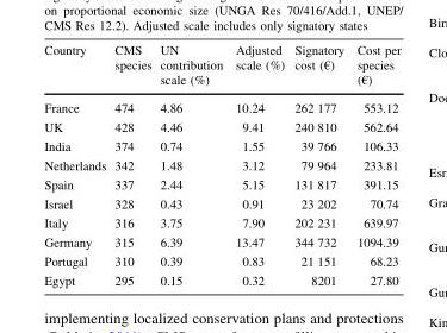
<table><thead><tr><td>Country</td><td>CMS species</td><td>UN contribution scale (%)</td><td>Adjusted scale (%)</td><td>Signatory cost (€)</td><td>Cost per species (€)</td></tr></thead><tbody><tr><td>France</td><td>474</td><td>4.86</td><td>10.24</td><td>262 177</td><td>553.12</td></tr><tr><td>UK</td><td>428</td><td>4.46</td><td>9.41</td><td>240 810</td><td>562.64</td></tr><tr><td>India</td><td>374</td><td>0.74</td><td>1.55</td><td>39 766</td><td>106.33</td></tr><tr><td>Netherlands</td><td>342</td><td>1.48</td><td>3.12</td><td>79 964</td><td>233.81</td></tr><tr><td>Spain</td><td>337</td><td>2.44</td><td>5.15</td><td>131 817</td><td>391.15</td></tr><tr><td>Israel</td><td>328</td><td>0.43</td><td>0.91</td><td>23 202</td><td>70.74</td></tr><tr><td>Italy</td><td>316</td><td>3.75</td><td>7.90</td><td>202 231</td><td>639.97</td></tr><tr><td>Germany</td><td>315</td><td>6.39</td><td>13.47</td><td>344 732</td><td>1094.39</td></tr><tr><td>Portugal</td><td>310</td><td>0.39</td><td>0.83</td><td>21 151</td><td>68.23</td></tr><tr><td>Egypt</td><td>295</td><td>0.15</td><td>0.32</td><td>8201</td><td>27.80</td></tr></tbody></table>